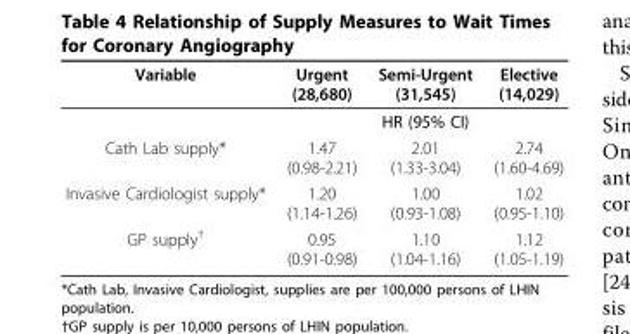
<table><thead><tr><td rowspan="2">Variable</td><td>Urgent (28,680)</td><td>Semi-Urgent (31,545)</td><td>Elective (14,029)</td></tr><tr><td colspan="3">HR (95% CI)</td></tr></thead><tbody><tr><td>Cath Lab supply*</td><td>1.47 (0.98-2.21)</td><td>2.01 (1.33-3.04)</td><td>2.74 (1.60-4.69)</td></tr><tr><td>Invasive Cardiologist supply*</td><td>1.20 (1.14-1.26)</td><td>1.00 (0.93-1.08)</td><td>1.02 (0.95-1.10)</td></tr><tr><td>GP supply<sup>†</sup></td><td>0.95 (0.91-0.98)</td><td>1.10 (1.04-1.16)</td><td>1.12 (1.05-1.19)</td></tr></tbody></table>